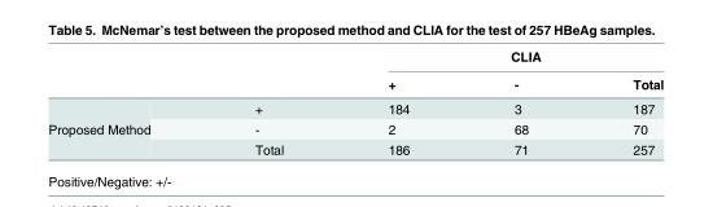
<table><thead><tr><td rowspan="2"></td><td rowspan="2"></td><td colspan="3">CLIA</td></tr><tr><td>+</td><td>-</td><td>Total</td></tr></thead><tbody><tr><td rowspan="3">Proposed Method</td><td>+</td><td>184</td><td>3</td><td>187</td></tr><tr><td>-</td><td>2</td><td>68</td><td>70</td></tr><tr><td>Total</td><td>186</td><td>71</td><td>257</td></tr></tbody></table>